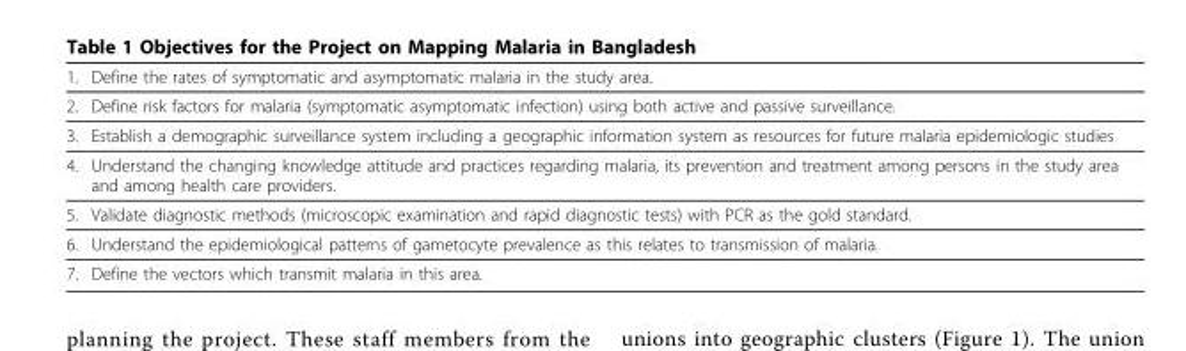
<table><thead><tr><td>1.</td><td>Define the rates of symptomatic and asymptomatic malaria in the study area.</td></tr></thead><tbody><tr><td>2.</td><td>Define risk factors for malaria (symptomatic asymptomatic infection) using both active and passive surveillance.</td></tr><tr><td>3.</td><td>Establish a demographic surveillance system including a geographic information system as resources for future malaria epidemiologic studies</td></tr><tr><td>4.</td><td>Understand the changing knowledge attitude and practices regarding malaria, its prevention and treatment among persons in the study area and among health care providers.</td></tr><tr><td>5.</td><td>Validate diagnostic methods (microscopic examination and rapid diagnostic tests) with PCR as the gold standard.</td></tr><tr><td>6.</td><td>Understand the epidemiological patterns of gametocyte prevalence as this relates to transmission of malaria.</td></tr><tr><td>7.</td><td>Define the vectors which transmit malaria in this area.</td></tr></tbody></table>